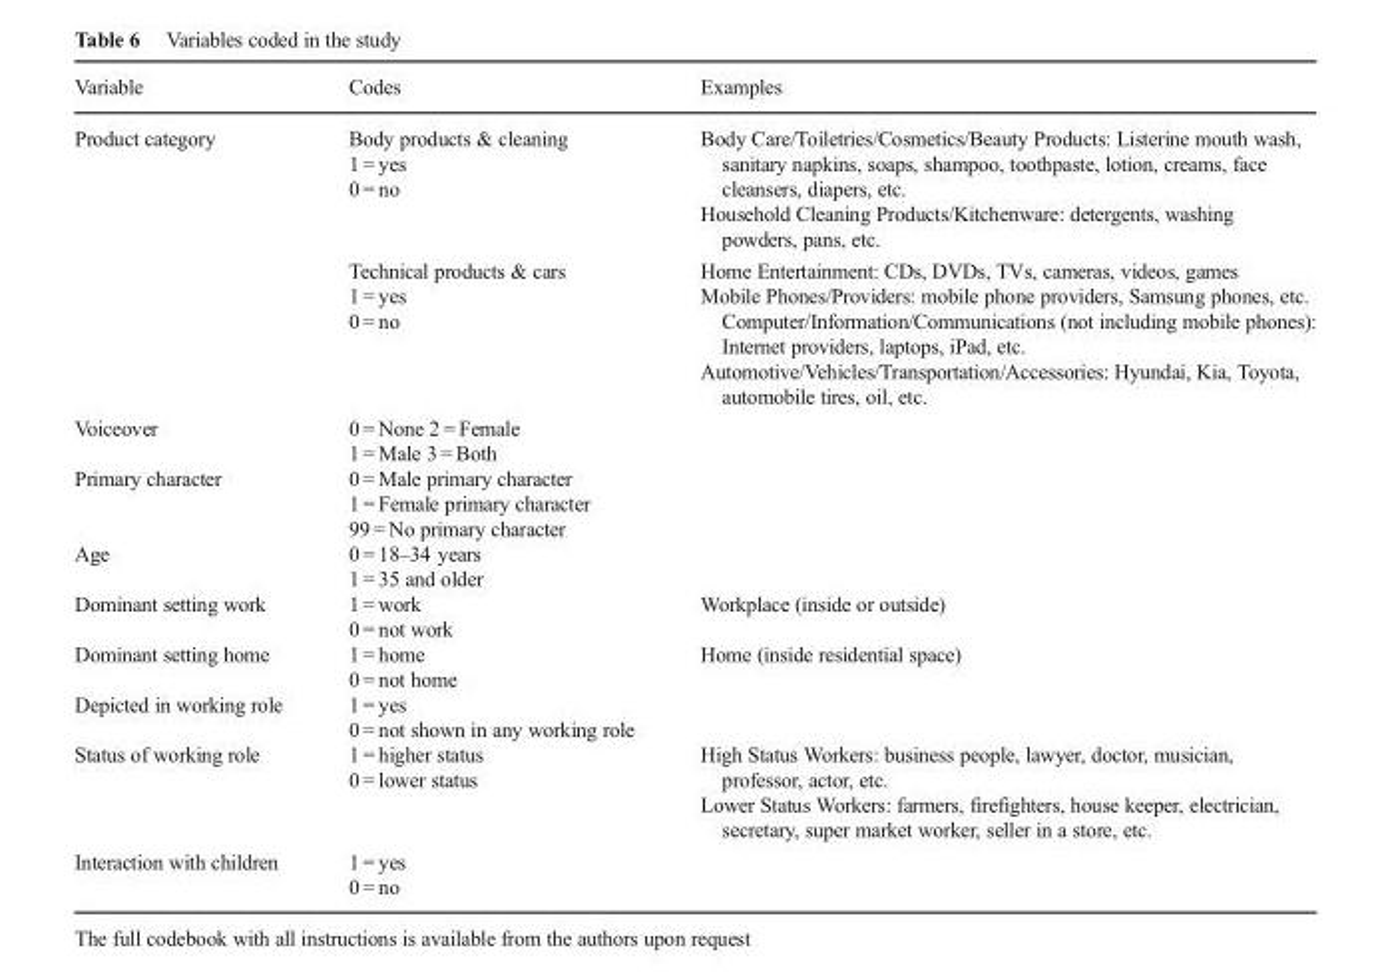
<table><thead><tr><td>Variable</td><td>Codes</td><td>Examples</td></tr></thead><tbody><tr><td rowspan="2">Product category</td><td>Body products &amp; cleaning 1 = yes 0 = no</td><td>Body Care/Toiletries/Cosmetics/Beauty Products: Listerine mouth wash, sanitary napkins, soaps, shampoo, toothpaste, lotion, creams, face cleansers, diapers, etc. Household Cleaning Products/Kitchenware: detergents, washing powders, pans, etc.</td></tr><tr><td>Technical products &amp; cars 1 = yes 0 = no</td><td>Home Entertainment: CDs, DVDs, TVs, cameras, videos, games Mobile Phones/Providers: mobile phone providers, Samsung phones, etc. Computer/Information/Communications (not including mobile phones): Internet providers, laptops, iPad, etc. Automotive/Vehicles/Transportation/Accessories: Hyundai, Kia, Toyota, automobile tires, oil, etc.</td></tr><tr><td>Voiceover</td><td>0 = None 2 = Female 1 = Male 3 = Both</td><td></td></tr><tr><td>Primary character</td><td>0 = Male primary character 1 = Female primary character 99 = No primary character</td><td></td></tr><tr><td>Age</td><td>0 = 18–34 years 1 = 35 and older</td><td></td></tr><tr><td>Dominant setting work</td><td>1 = work 0 = not work</td><td>Workplace (inside or outside)</td></tr><tr><td>Dominant setting home</td><td>1 = home 0 = not home</td><td>Home (inside residential space)</td></tr><tr><td>Depicted in working role</td><td>1 = yes 0 = not shown in any working role</td><td></td></tr><tr><td>Status of working role</td><td>1 = higher status 0 = lower status</td><td>High Status Workers: business people, lawyer, doctor, musician, professor, actor, etc. Lower Status Workers: farmers, firefighters, house keeper, electrician, secretary, super market worker, seller in a store, etc.</td></tr><tr><td>Interaction with children</td><td>1 = yes 0 = no</td><td></td></tr></tbody></table>